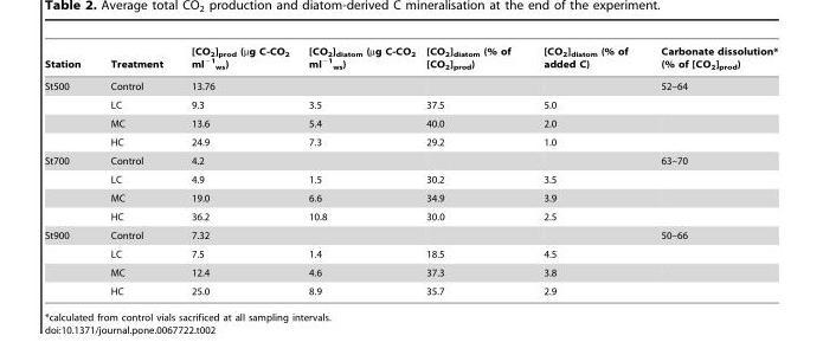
<table><thead><tr><td>Station</td><td>Treatment</td><td>[CO<sub>2</sub>]<sub>prod</sub> (µg C-CO<sub>2</sub> ml<sup>−1</sup> <sub>ws</sub>)</td><td>[CO<sub>2</sub>]<sub>diatom</sub> (µg C-CO<sub>2</sub> ml<sup>−1</sup> <sub>ws</sub>)</td><td>[CO<sub>2</sub>]<sub>diatom</sub> (% of [CO<sub>2</sub>]<sub>prod</sub>)</td><td>[CO<sub>2</sub>]<sub>diatom</sub> (% of added C)</td><td>Carbonate dissolution* (% of [CO<sub>2</sub>]<sub>prod</sub>)</td></tr></thead><tbody><tr><td rowspan="4">St500</td><td>Control</td><td>13.76</td><td></td><td></td><td></td><td>52–64</td></tr><tr><td>LC</td><td>9.3</td><td>3.5</td><td>37.5</td><td>5.0</td><td></td></tr><tr><td>MC</td><td>13.6</td><td>5.4</td><td>40.0</td><td>2.0</td><td></td></tr><tr><td>HC</td><td>24.9</td><td>7.3</td><td>29.2</td><td>1.0</td><td></td></tr><tr><td rowspan="4">St700</td><td>Control</td><td>4.2</td><td></td><td></td><td></td><td>63–70</td></tr><tr><td>LC</td><td>4.9</td><td>1.5</td><td>30.2</td><td>3.5</td><td></td></tr><tr><td>MC</td><td>19.0</td><td>6.6</td><td>34.9</td><td>3.9</td><td></td></tr><tr><td>HC</td><td>36.2</td><td>10.8</td><td>30.0</td><td>2.5</td><td></td></tr><tr><td rowspan="4">St900</td><td>Control</td><td>7.32</td><td></td><td></td><td></td><td>50–66</td></tr><tr><td>LC</td><td>7.5</td><td>1.4</td><td>18.5</td><td>4.5</td><td></td></tr><tr><td>MC</td><td>12.4</td><td>4.6</td><td>37.3</td><td>3.8</td><td></td></tr><tr><td>HC</td><td>25.0</td><td>8.9</td><td>35.7</td><td>2.9</td><td></td></tr></tbody></table>